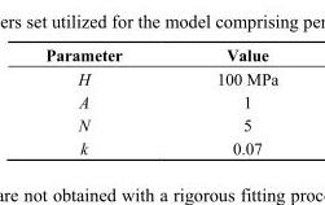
<table><thead><tr><td>Parameter</td><td>Value</td></tr></thead><tbody><tr><td>H</td><td>100 MPa</td></tr><tr><td>A</td><td>1</td></tr><tr><td>N</td><td>5</td></tr><tr><td>k</td><td>0.07</td></tr></tbody></table>